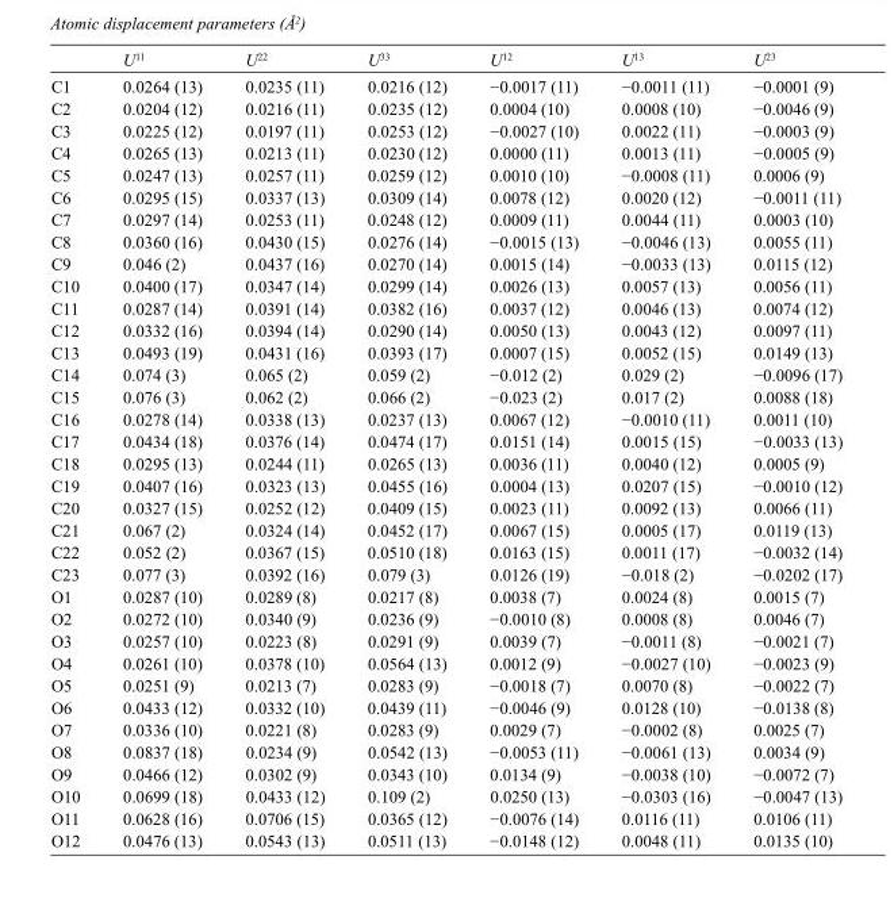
<table><thead><tr><td></td><td>U<sup>11</sup></td><td>U<sup>22</sup></td><td>U<sup>33</sup></td><td>U<sup>12</sup></td><td>U<sup>13</sup></td><td>U<sup>23</sup></td></tr></thead><tbody><tr><td>C1</td><td>0.0264 (13)</td><td>0.0235 (11)</td><td>0.0216 (12)</td><td>−0.0017 (11)</td><td>−0.0011 (11)</td><td>−0.0001 (9)</td></tr><tr><td>C2</td><td>0.0204 (12)</td><td>0.0216 (11)</td><td>0.0235 (12)</td><td>0.0004 (10)</td><td>0.0008 (10)</td><td>−0.0046 (9)</td></tr><tr><td>C3</td><td>0.0225 (12)</td><td>0.0197 (11)</td><td>0.0253 (12)</td><td>−0.0027 (10)</td><td>0.0022 (11)</td><td>−0.0003 (9)</td></tr><tr><td>C4</td><td>0.0265 (13)</td><td>0.0213 (11)</td><td>0.0230 (12)</td><td>0.0000 (11)</td><td>0.0013 (11)</td><td>−0.0005 (9)</td></tr><tr><td>C5</td><td>0.0247 (13)</td><td>0.0257 (11)</td><td>0.0259 (12)</td><td>0.0010 (10)</td><td>−0.0008 (11)</td><td>0.0006 (9)</td></tr><tr><td>C6</td><td>0.0295 (15)</td><td>0.0337 (13)</td><td>0.0309 (14)</td><td>0.0078 (12)</td><td>0.0020 (12)</td><td>−0.0011 (11)</td></tr><tr><td>C7</td><td>0.0297 (14)</td><td>0.0253 (11)</td><td>0.0248 (12)</td><td>0.0009 (11)</td><td>0.0044 (11)</td><td>0.0003 (10)</td></tr><tr><td>C8</td><td>0.0360 (16)</td><td>0.0430 (15)</td><td>0.0276 (14)</td><td>−0.0015 (13)</td><td>−0.0046 (13)</td><td>0.0055 (11)</td></tr><tr><td>C9</td><td>0.046 (2)</td><td>0.0437 (16)</td><td>0.0270 (14)</td><td>0.0015 (14)</td><td>−0.0033 (13)</td><td>0.0115 (12)</td></tr><tr><td>C10</td><td>0.0400 (17)</td><td>0.0347 (14)</td><td>0.0299 (14)</td><td>0.0026 (13)</td><td>0.0057 (13)</td><td>0.0056 (11)</td></tr><tr><td>C11</td><td>0.0287 (14)</td><td>0.0391 (14)</td><td>0.0382 (16)</td><td>0.0037 (12)</td><td>0.0046 (13)</td><td>0.0074 (12)</td></tr><tr><td>C12</td><td>0.0332 (16)</td><td>0.0394 (14)</td><td>0.0290 (14)</td><td>0.0050 (13)</td><td>0.0043 (12)</td><td>0.0097 (11)</td></tr><tr><td>C13</td><td>0.0493 (19)</td><td>0.0431 (16)</td><td>0.0393 (17)</td><td>0.0007 (15)</td><td>0.0052 (15)</td><td>0.0149 (13)</td></tr><tr><td>C14</td><td>0.074 (3)</td><td>0.065 (2)</td><td>0.059 (2)</td><td>−0.012 (2)</td><td>0.029 (2)</td><td>−0.0096 (17)</td></tr><tr><td>C15</td><td>0.076 (3)</td><td>0.062 (2)</td><td>0.066 (2)</td><td>−0.023 (2)</td><td>0.017 (2)</td><td>0.0088 (18)</td></tr><tr><td>C16</td><td>0.0278 (14)</td><td>0.0338 (13)</td><td>0.0237 (13)</td><td>0.0067 (12)</td><td>−0.0010 (11)</td><td>0.0011 (10)</td></tr><tr><td>C17</td><td>0.0434 (18)</td><td>0.0376 (14)</td><td>0.0474 (17)</td><td>0.0151 (14)</td><td>0.0015 (15)</td><td>−0.0033 (13)</td></tr><tr><td>C18</td><td>0.0295 (13)</td><td>0.0244 (11)</td><td>0.0265 (13)</td><td>0.0036 (11)</td><td>0.0040 (12)</td><td>0.0005 (9)</td></tr><tr><td>C19</td><td>0.0407 (16)</td><td>0.0323 (13)</td><td>0.0455 (16)</td><td>0.0004 (13)</td><td>0.0207 (15)</td><td>−0.0010 (12)</td></tr><tr><td>C20</td><td>0.0327 (15)</td><td>0.0252 (12)</td><td>0.0409 (15)</td><td>0.0023 (11)</td><td>0.0092 (13)</td><td>0.0066 (11)</td></tr><tr><td>C21</td><td>0.067 (2)</td><td>0.0324 (14)</td><td>0.0452 (17)</td><td>0.0067 (15)</td><td>0.0005 (17)</td><td>0.0119 (13)</td></tr><tr><td>C22</td><td>0.052 (2)</td><td>0.0367 (15)</td><td>0.0510 (18)</td><td>0.0163 (15)</td><td>0.0011 (17)</td><td>−0.0032 (14)</td></tr><tr><td>C23</td><td>0.077 (3)</td><td>0.0392 (16)</td><td>0.079 (3)</td><td>0.0126 (19)</td><td>−0.018 (2)</td><td>−0.0202 (17)</td></tr><tr><td>O1</td><td>0.0287 (10)</td><td>0.0289 (8)</td><td>0.0217 (8)</td><td>0.0038 (7)</td><td>0.0024 (8)</td><td>0.0015 (7)</td></tr><tr><td>O2</td><td>0.0272 (10)</td><td>0.0340 (9)</td><td>0.0236 (9)</td><td>−0.0010 (8)</td><td>0.0008 (8)</td><td>0.0046 (7)</td></tr><tr><td>O3</td><td>0.0257 (10)</td><td>0.0223 (8)</td><td>0.0291 (9)</td><td>0.0039 (7)</td><td>−0.0011 (8)</td><td>−0.0021 (7)</td></tr><tr><td>O4</td><td>0.0261 (10)</td><td>0.0378 (10)</td><td>0.0564 (13)</td><td>0.0012 (9)</td><td>−0.0027 (10)</td><td>−0.0023 (9)</td></tr><tr><td>O5</td><td>0.0251 (9)</td><td>0.0213 (7)</td><td>0.0283 (9)</td><td>−0.0018 (7)</td><td>0.0070 (8)</td><td>−0.0022 (7)</td></tr><tr><td>O6</td><td>0.0433 (12)</td><td>0.0332 (10)</td><td>0.0439 (11)</td><td>−0.0046 (9)</td><td>0.0128 (10)</td><td>−0.0138 (8)</td></tr><tr><td>O7</td><td>0.0336 (10)</td><td>0.0221 (8)</td><td>0.0283 (9)</td><td>0.0029 (7)</td><td>−0.0002 (8)</td><td>0.0025 (7)</td></tr><tr><td>O8</td><td>0.0837 (18)</td><td>0.0234 (9)</td><td>0.0542 (13)</td><td>−0.0053 (11)</td><td>−0.0061 (13)</td><td>0.0034 (9)</td></tr><tr><td>O9</td><td>0.0466 (12)</td><td>0.0302 (9)</td><td>0.0343 (10)</td><td>0.0134 (9)</td><td>−0.0038 (10)</td><td>−0.0072 (7)</td></tr><tr><td>O10</td><td>0.0699 (18)</td><td>0.0433 (12)</td><td>0.109 (2)</td><td>0.0250 (13)</td><td>−0.0303 (16)</td><td>−0.0047 (13)</td></tr><tr><td>O11</td><td>0.0628 (16)</td><td>0.0706 (15)</td><td>0.0365 (12)</td><td>−0.0076 (14)</td><td>0.0116 (11)</td><td>0.0106 (11)</td></tr><tr><td>O12</td><td>0.0476 (13)</td><td>0.0543 (13)</td><td>0.0511 (13)</td><td>−0.0148 (12)</td><td>0.0048 (11)</td><td>0.0135 (10)</td></tr></tbody></table>